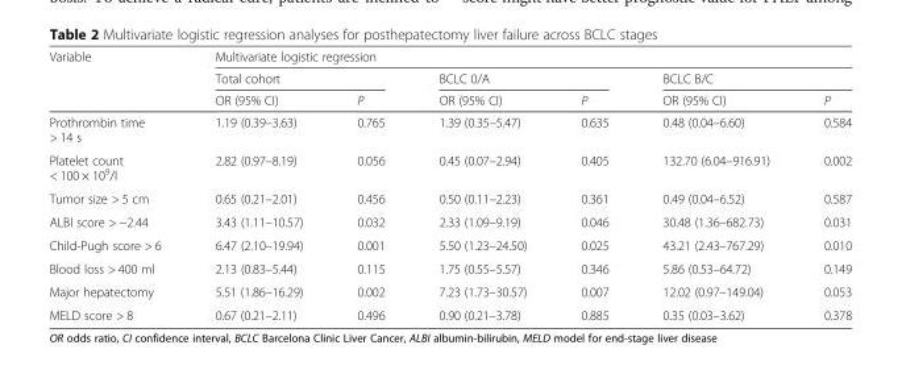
<table><thead><tr><td rowspan="3">Variable</td><td colspan="6">Multivariate logistic regression</td></tr><tr><td colspan="2">Total cohort</td><td colspan="2">BCLC 0/A</td><td colspan="2">BCLC B/C</td></tr><tr><td>OR (95% CI)</td><td>P</td><td>OR (95% CI)</td><td>P</td><td>OR (95% CI)</td><td>P</td></tr></thead><tbody><tr><td>Prothrombin time &gt; 14 s</td><td>1.19 (0.39–3.63)</td><td>0.765</td><td>1.39 (0.35–5.47)</td><td>0.635</td><td>0.48 (0.04–6.60)</td><td>0.584</td></tr><tr><td>Platelet count &lt; 100 × 10<sup>9</sup>/l</td><td>2.82 (0.97–8.19)</td><td>0.056</td><td>0.45 (0.07–2.94)</td><td>0.405</td><td>132.70 (6.04–916.91)</td><td>0.002</td></tr><tr><td>Tumor size &gt; 5 cm</td><td>0.65 (0.21–2.01)</td><td>0.456</td><td>0.50 (0.11–2.23)</td><td>0.361</td><td>0.49 (0.04–6.52)</td><td>0.587</td></tr><tr><td>ALBI score &gt; −2.44</td><td>3.43 (1.11–10.57)</td><td>0.032</td><td>2.33 (1.09–9.19)</td><td>0.046</td><td>30.48 (1.36–682.73)</td><td>0.031</td></tr><tr><td>Child-Pugh score &gt; 6</td><td>6.47 (2.10–19.94)</td><td>0.001</td><td>5.50 (1.23–24.50)</td><td>0.025</td><td>43.21 (2.43–767.29)</td><td>0.010</td></tr><tr><td>Blood loss &gt; 400 ml</td><td>2.13 (0.83–5.44)</td><td>0.115</td><td>1.75 (0.55–5.57)</td><td>0.346</td><td>5.86 (0.53–64.72)</td><td>0.149</td></tr><tr><td>Major hepatectomy</td><td>5.51 (1.86–16.29)</td><td>0.002</td><td>7.23 (1.73–30.57)</td><td>0.007</td><td>12.02 (0.97–149.04)</td><td>0.053</td></tr><tr><td>MELD score &gt; 8</td><td>0.67 (0.21–2.11)</td><td>0.496</td><td>0.90 (0.21–3.78)</td><td>0.885</td><td>0.35 (0.03–3.62)</td><td>0.378</td></tr></tbody></table>